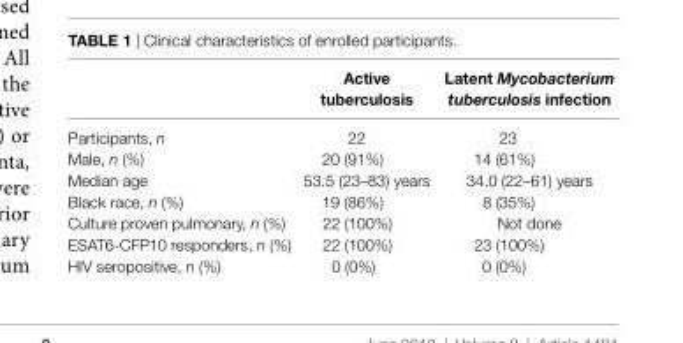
<table><thead><tr><td></td><td>active tuberculosis</td><td>latent Mycobacterium tuberculosis infection</td></tr></thead><tbody><tr><td>Participants, n</td><td>22</td><td>23</td></tr><tr><td>Male, n (%)</td><td>20 (91%)</td><td>14 (61%)</td></tr><tr><td>Median age</td><td>53.5 (23–83) years</td><td>34.0 (22–61) years</td></tr><tr><td>Black race, n (%)</td><td>19 (86%)</td><td>8 (35%)</td></tr><tr><td>Culture proven pulmonary, n (%)</td><td>22 (100%)</td><td>Not done</td></tr><tr><td>ESAT6-CFP10 responders, n (%)</td><td>22 (100%)</td><td>23 (100%)</td></tr><tr><td>HIV seropositive, n (%)</td><td>0 (0%)</td><td>0 (0%)</td></tr></tbody></table>